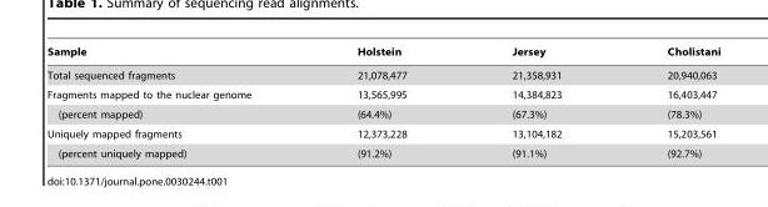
<table><thead><tr><td>Sample</td><td>Holstein</td><td>Jersey</td><td>Cholistani</td></tr></thead><tbody><tr><td>Total sequenced fragments</td><td>21,078,477</td><td>21,358,931</td><td>20,940,063</td></tr><tr><td>Fragments mapped to the nuclear genome</td><td>13,565,995</td><td>14,384,823</td><td>16,403,447</td></tr><tr><td>(percent mapped)</td><td>(64.4%)</td><td>(67.3%)</td><td>(78.3%)</td></tr><tr><td>Uniquely mapped fragments</td><td>12,373,228</td><td>13,104,182</td><td>15,203,561</td></tr><tr><td>(percent uniquely mapped)</td><td>(91.2%)</td><td>(91.1%)</td><td>(92.7%)</td></tr></tbody></table>